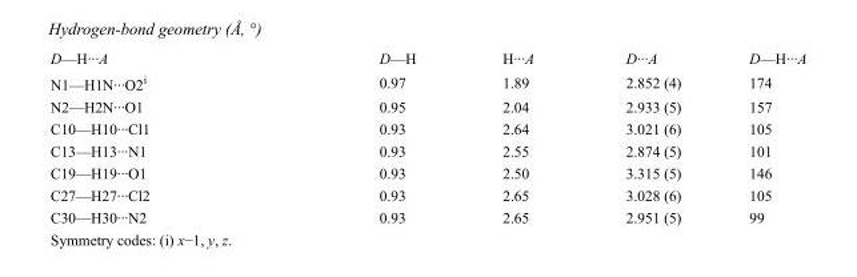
<table><tbody><tr><td>D—H···A</td><td>D—H</td><td>H···A</td><td>D···A</td><td>D—H···A</td></tr><tr><td>N1—H1N···O2<sup>i</sup></td><td>0.97</td><td>1.89</td><td>2.852 (4)</td><td>174</td></tr><tr><td>N2—H2N···O1</td><td>0.95</td><td>2.04</td><td>2.933 (5)</td><td>157</td></tr><tr><td>C10—H10···Cl1</td><td>0.93</td><td>2.64</td><td>3.021 (6)</td><td>105</td></tr><tr><td>C13—H13···N1</td><td>0.93</td><td>2.55</td><td>2.874 (5)</td><td>101</td></tr><tr><td>C19—H19···O1</td><td>0.93</td><td>2.50</td><td>3.315 (5)</td><td>146</td></tr><tr><td>C27—H27···Cl2</td><td>0.93</td><td>2.65</td><td>3.028 (6)</td><td>105</td></tr><tr><td>C30—H30···N2</td><td>0.93</td><td>2.65</td><td>2.951 (5)</td><td>99</td></tr></tbody></table>